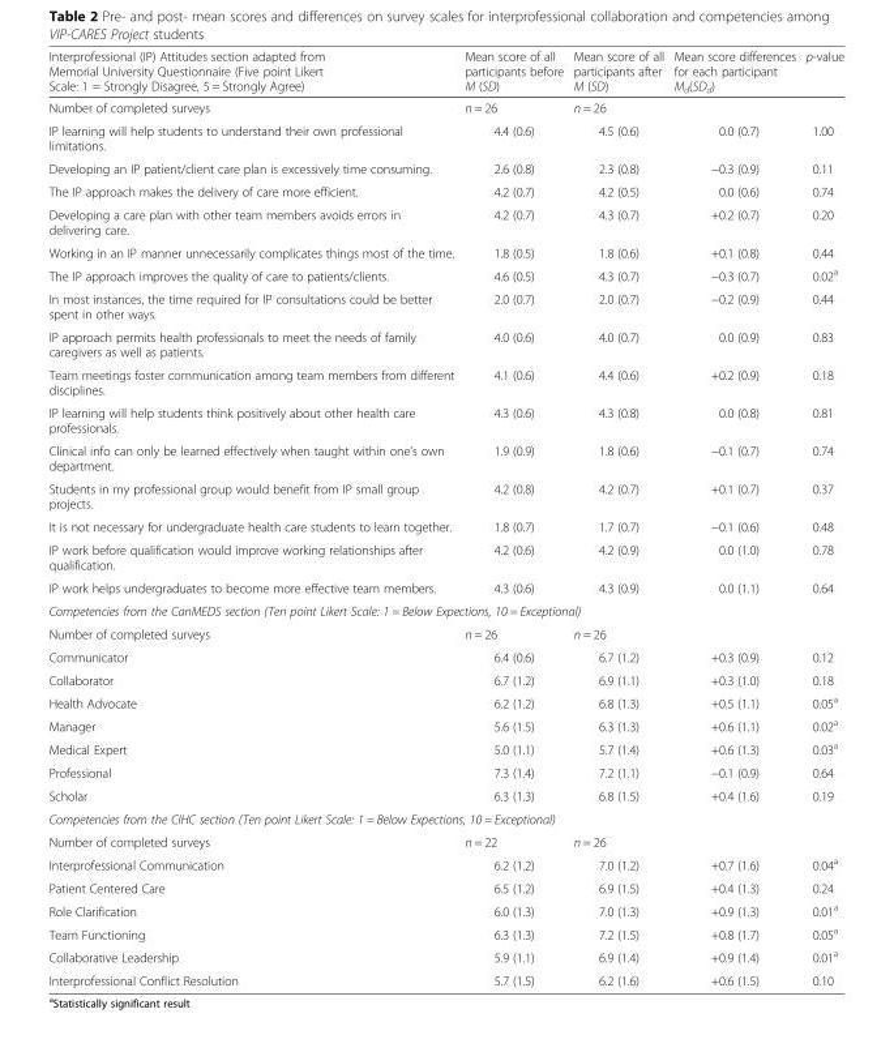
<table><thead><tr><td>Interprofessional (IP) Attitudes section adapted from Memorial University Questionnaire (Five point Likert Scale: 1 = Strongly Disagree, 5 = Strongly Agree)</td><td>Mean score of all participants before M (SD)</td><td>Mean score of all participants after M (SD)</td><td>Mean score differences for each participant M<sub>d</sub>(SD<sub>d</sub>)</td><td>p-value</td></tr></thead><tbody><tr><td>Number of completed surveys</td><td>n = 26</td><td>n = 26</td><td></td><td></td></tr><tr><td>IP learning will help students to understand their own professional limitations.</td><td>4.4 (0.6)</td><td>4.5 (0.6)</td><td>0.0 (0.7)</td><td>1.00</td></tr><tr><td>Developing an IP patient/client care plan is excessively time consuming.</td><td>2.6 (0.8)</td><td>2.3 (0.8)</td><td>−0.3 (0.9)</td><td>0.11</td></tr><tr><td>The IP approach makes the delivery of care more efficient.</td><td>4.2 (0.7)</td><td>4.2 (0.5)</td><td>0.0 (0.6)</td><td>0.74</td></tr><tr><td>Developing a care plan with other team members avoids errors in delivering care.</td><td>4.2 (0.7)</td><td>4.3 (0.7)</td><td>+0.2 (0.7)</td><td>0.20</td></tr><tr><td>Working in an IP manner unnecessarily complicates things most of the time.</td><td>1.8 (0.5)</td><td>1.8 (0.6)</td><td>+0.1 (0.8)</td><td>0.44</td></tr><tr><td>The IP approach improves the quality of care to patients/clients.</td><td>4.6 (0.5)</td><td>4.3 (0.7)</td><td>−0.3 (0.7)</td><td>0.02<sup>a</sup></td></tr><tr><td>In most instances, the time required for IP consultations could be better spent in other ways.</td><td>2.0 (0.7)</td><td>2.0 (0.7)</td><td>−0.2 (0.9)</td><td>0.44</td></tr><tr><td>IP approach permits health professionals to meet the needs of family caregivers as well as patients.</td><td>4.0 (0.6)</td><td>4.0 (0.7)</td><td>0.0 (0.9)</td><td>0.83</td></tr><tr><td>Team meetings foster communication among team members from different disciplines.</td><td>4.1 (0.6)</td><td>4.4 (0.6)</td><td>+0.2 (0.9)</td><td>0.18</td></tr><tr><td>IP learning will help students think positively about other health care professionals.</td><td>4.3 (0.6)</td><td>4.3 (0.8)</td><td>0.0 (0.8)</td><td>0.81</td></tr><tr><td>Clinical info can only be learned effectively when taught within one’s own department.</td><td>1.9 (0.9)</td><td>1.8 (0.6)</td><td>−0.1 (0.7)</td><td>0.74</td></tr><tr><td>Students in my professional group would benefit from IP small group projects.</td><td>4.2 (0.8)</td><td>4.2 (0.7)</td><td>+0.1 (0.7)</td><td>0.37</td></tr><tr><td>It is not necessary for undergraduate health care students to learn together.</td><td>1.8 (0.7)</td><td>1.7 (0.7)</td><td>−0.1 (0.6)</td><td>0.48</td></tr><tr><td>IP work before qualification would improve working relationships after qualification.</td><td>4.2 (0.6)</td><td>4.2 (0.9)</td><td>0.0 (1.0)</td><td>0.78</td></tr><tr><td>IP work helps undergraduates to become more effective team members.</td><td>4.3 (0.6)</td><td>4.3 (0.9)</td><td>0.0 (1.1)</td><td>0.64</td></tr><tr><td colspan="5">Competencies from the CanMEDS section (Ten point Likert Scale: 1 = Below Expections, 10 = Exceptional)</td></tr><tr><td>Number of completed surveys</td><td>n = 26</td><td>n = 26</td><td></td><td></td></tr><tr><td>Communicator</td><td>6.4 (0.6)</td><td>6.7 (1.2)</td><td>+0.3 (0.9)</td><td>0.12</td></tr><tr><td>Collaborator</td><td>6.7 (1.2)</td><td>6.9 (1.1)</td><td>+0.3 (1.0)</td><td>0.18</td></tr><tr><td>Health Advocate</td><td>6.2 (1.2)</td><td>6.8 (1.3)</td><td>+0.5 (1.1)</td><td>0.05<sup>a</sup></td></tr><tr><td>Manager</td><td>5.6 (1.5)</td><td>6.3 (1.3)</td><td>+0.6 (1.1)</td><td>0.02<sup>a</sup></td></tr><tr><td>Medical Expert</td><td>5.0 (1.1)</td><td>5.7 (1.4)</td><td>+0.6 (1.3)</td><td>0.03<sup>a</sup></td></tr><tr><td>Professional</td><td>7.3 (1.4)</td><td>7.2 (1.1)</td><td>−0.1 (0.9)</td><td>0.64</td></tr><tr><td>Scholar</td><td>6.3 (1.3)</td><td>6.8 (1.5)</td><td>+0.4 (1.6)</td><td>0.19</td></tr><tr><td colspan="5">Competencies from the CIHC section (Ten point Likert Scale: 1 = Below Expections, 10 = Exceptional)</td></tr><tr><td>Number of completed surveys</td><td>n = 22</td><td>n = 26</td><td></td><td></td></tr><tr><td>Interprofessional Communication</td><td>6.2 (1.2)</td><td>7.0 (1.2)</td><td>+0.7 (1.6)</td><td>0.04<sup>a</sup></td></tr><tr><td>Patient Centered Care</td><td>6.5 (1.2)</td><td>6.9 (1.5)</td><td>+0.4 (1.3)</td><td>0.24</td></tr><tr><td>Role Clarification</td><td>6.0 (1.3)</td><td>7.0 (1.3)</td><td>+0.9 (1.3)</td><td>0.01<sup>a</sup></td></tr><tr><td>Team Functioning</td><td>6.3 (1.3)</td><td>7.2 (1.5)</td><td>+0.8 (1.7)</td><td>0.05<sup>a</sup></td></tr><tr><td>Collaborative Leadership</td><td>5.9 (1.1)</td><td>6.9 (1.4)</td><td>+0.9 (1.4)</td><td>0.01<sup>a</sup></td></tr><tr><td>Interprofessional Conflict Resolution</td><td>5.7 (1.5)</td><td>6.2 (1.6)</td><td>+0.6 (1.5)</td><td>0.10</td></tr></tbody></table>